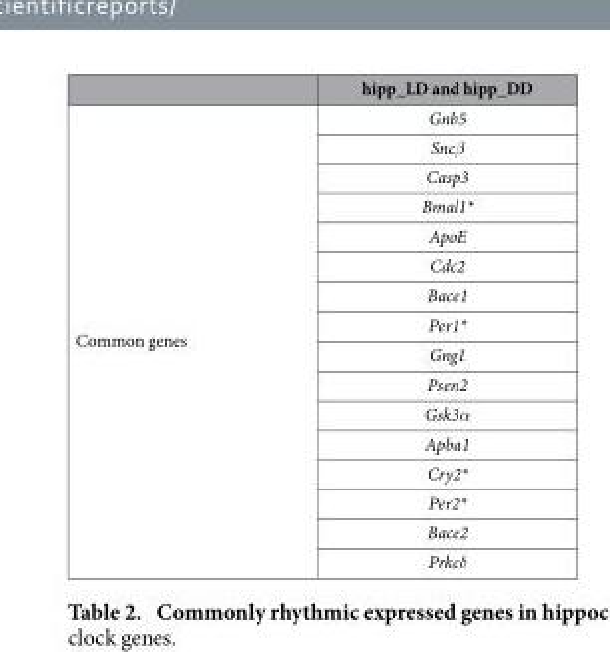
<table><thead><tr><td></td><td>hipp_LD and hipp_DD</td></tr></thead><tbody><tr><td rowspan="16">Common genes</td><td>Gnb5</td></tr><tr><td>Sncβ</td></tr><tr><td>Casp3</td></tr><tr><td>Bmal1*</td></tr><tr><td>ApoE</td></tr><tr><td>Cdc2</td></tr><tr><td>Bace1</td></tr><tr><td>Per1*</td></tr><tr><td>Gng1</td></tr><tr><td>Psen2</td></tr><tr><td>Gsk3α</td></tr><tr><td>Apba1</td></tr><tr><td>Cry2*</td></tr><tr><td>Per2*</td></tr><tr><td>Bace2</td></tr><tr><td>Prkcδ</td></tr></tbody></table>